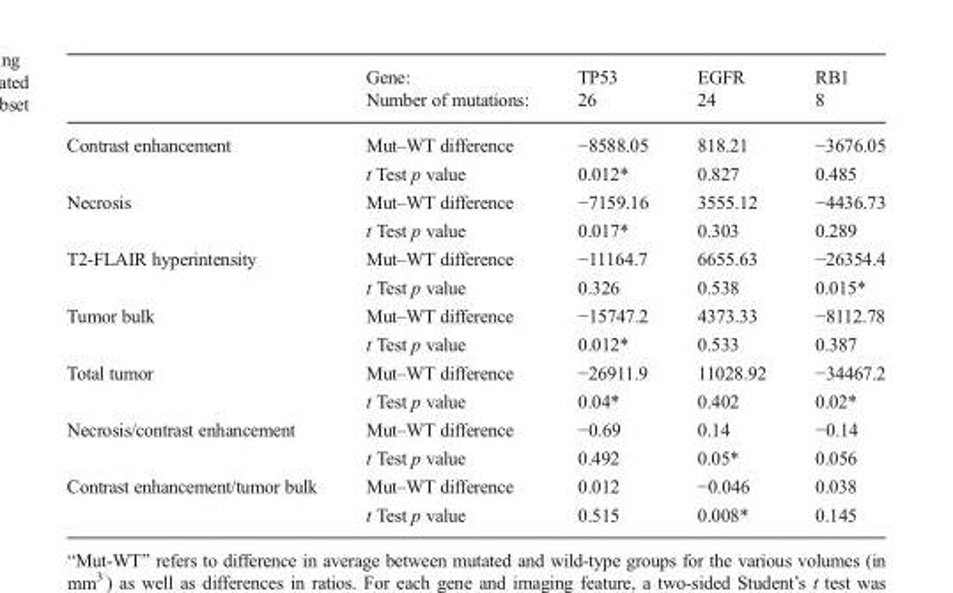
<table><thead><tr><td rowspan="2"></td><td rowspan="2">Gene: Number of mutations:</td><td rowspan="2">TP53 26</td><td rowspan="2">EGFR 24</td><td rowspan="2">RB1 8</td></tr><tr></tr></thead><tbody><tr><td rowspan="2">Contrast enhancement</td><td>Mut–WT difference</td><td>−8588.05</td><td>818.21</td><td>−3676.05</td></tr><tr><td>t Test p value</td><td>0.012*</td><td>0.827</td><td>0.485</td></tr><tr><td rowspan="2">Necrosis</td><td>Mut–WT difference</td><td>−7159.16</td><td>3555.12</td><td>−4436.73</td></tr><tr><td>t Test p value</td><td>0.017*</td><td>0.303</td><td>0.289</td></tr><tr><td rowspan="2">T2-FLAIR hyperintensity</td><td>Mut–WT difference</td><td>−11164.7</td><td>6655.63</td><td>−26354.4</td></tr><tr><td>t Test p value</td><td>0.326</td><td>0.538</td><td>0.015*</td></tr><tr><td rowspan="2">Tumor bulk</td><td>Mut–WT difference</td><td>−15747.2</td><td>4373.33</td><td>−8112.78</td></tr><tr><td>t Test p value</td><td>0.012*</td><td>0.533</td><td>0.387</td></tr><tr><td rowspan="2">Total tumor</td><td>Mut–WT difference</td><td>−26911.9</td><td>11028.92</td><td>−34467.2</td></tr><tr><td>t Test p value</td><td>0.04*</td><td>0.402</td><td>0.02*</td></tr><tr><td rowspan="2">Necrosis/contrast enhancement</td><td>Mut–WT difference</td><td>−0.69</td><td>0.14</td><td>−0.14</td></tr><tr><td>t Test p value</td><td>0.492</td><td>0.05*</td><td>0.056</td></tr><tr><td rowspan="2">Contrast enhancement/tumor bulk</td><td>Mut–WT difference</td><td>0.012</td><td>−0.046</td><td>0.038</td></tr><tr><td>t Test p value</td><td>0.515</td><td>0.008*</td><td>0.145</td></tr></tbody></table>